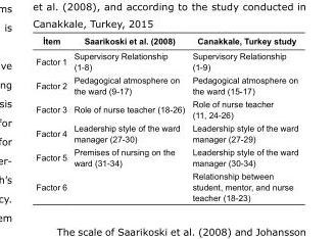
<table><tbody><tr><td>İtem</td><td>Saarikoski et al. (2008)</td><td>Canakkale, Turkey study</td></tr><tr><td>Factor 1</td><td>Supervisory Relationship (1-8)</td><td>Supervisory Relationship (1-9)</td></tr><tr><td>Factor 2</td><td>Pedagogical atmosphere on the ward (9-17)</td><td>Pedagogical atmosphere on the ward (15-17)</td></tr><tr><td>Factor 3</td><td>Role of nurse teacher (18-26)</td><td>Role of nurse teacher (11, 24-26)</td></tr><tr><td>Factor 4</td><td>Leadership style of the ward manager (27-30)</td><td>Leadership style of the ward manager (27-29)</td></tr><tr><td>Factor 5</td><td>Premises of nursing on the ward (31-34)</td><td>Leadership style of the ward manager (30-34)</td></tr><tr><td>Factor 6</td><td></td><td>Relationship between student, mentor, and nurse teacher (18-23)</td></tr></tbody></table>